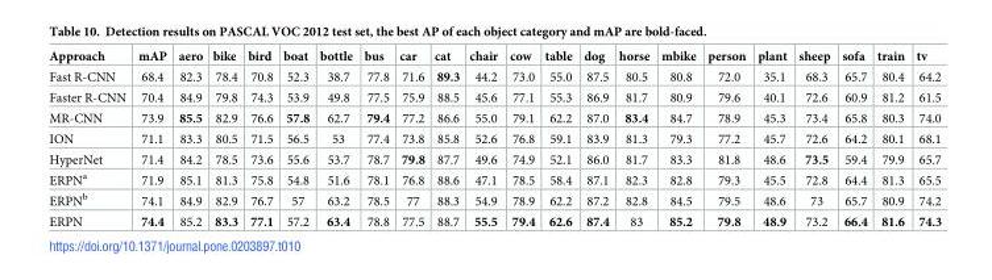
<table><thead><tr><td>Approach</td><td>mAP</td><td>aero</td><td>bike</td><td>bird</td><td>boat</td><td>bottle</td><td>bus</td><td>car</td><td>cat</td><td>chair</td><td>cow</td><td>table</td><td>dog</td><td>horse</td><td>mbike</td><td>person</td><td>plant</td><td>sheep</td><td>sofa</td><td>train</td><td>tv</td></tr></thead><tbody><tr><td>Fast R-CNN</td><td>68.4</td><td>82.3</td><td>78.4</td><td>70.8</td><td>52.3</td><td>38.7</td><td>77.8</td><td>71.6</td><td>89.3</td><td>44.2</td><td>73.0</td><td>55.0</td><td>87.5</td><td>80.5</td><td>80.8</td><td>72.0</td><td>35.1</td><td>68.3</td><td>65.7</td><td>80.4</td><td>64.2</td></tr><tr><td>Faster R-CNN</td><td>70.4</td><td>84.9</td><td>79.8</td><td>74.3</td><td>53.9</td><td>49.8</td><td>77.5</td><td>75.9</td><td>88.5</td><td>45.6</td><td>77.1</td><td>55.3</td><td>86.9</td><td>81.7</td><td>80.9</td><td>79.6</td><td>40.1</td><td>72.6</td><td>60.9</td><td>81.2</td><td>61.5</td></tr><tr><td>MR-CNN</td><td>73.9</td><td>85.5</td><td>82.9</td><td>76.6</td><td>57.8</td><td>62.7</td><td>79.4</td><td>77.2</td><td>86.6</td><td>55.0</td><td>79.1</td><td>62.2</td><td>87.0</td><td>83.4</td><td>84.7</td><td>78.9</td><td>45.3</td><td>73.4</td><td>65.8</td><td>80.3</td><td>74.0</td></tr><tr><td>ION</td><td>71.1</td><td>83.3</td><td>80.5</td><td>71.5</td><td>56.5</td><td>53</td><td>77.4</td><td>73.8</td><td>85.8</td><td>52.6</td><td>76.8</td><td>59.1</td><td>83.9</td><td>81.3</td><td>79.3</td><td>77.2</td><td>45.7</td><td>72.6</td><td>64.2</td><td>80.1</td><td>68.1</td></tr><tr><td>HyperNet</td><td>71.4</td><td>84.2</td><td>78.5</td><td>73.6</td><td>55.6</td><td>53.7</td><td>78.7</td><td>79.8</td><td>87.7</td><td>49.6</td><td>74.9</td><td>52.1</td><td>86.0</td><td>81.7</td><td>83.3</td><td>81.8</td><td>48.6</td><td>73.5</td><td>59.4</td><td>79.9</td><td>65.7</td></tr><tr><td>ERPN<sup>a</sup></td><td>71.9</td><td>85.1</td><td>81.3</td><td>75.8</td><td>54.8</td><td>51.6</td><td>78.1</td><td>76.8</td><td>88.6</td><td>47.1</td><td>78.5</td><td>58.4</td><td>87.1</td><td>82.3</td><td>82.8</td><td>79.3</td><td>45.5</td><td>72.8</td><td>64.4</td><td>81.3</td><td>65.5</td></tr><tr><td>ERPN<sup>b</sup></td><td>74.1</td><td>84.9</td><td>82.9</td><td>76.7</td><td>57</td><td>63.2</td><td>78.5</td><td>77</td><td>88.3</td><td>54.9</td><td>78.9</td><td>62.2</td><td>87.2</td><td>82.8</td><td>84.5</td><td>79.5</td><td>48.6</td><td>73</td><td>65.7</td><td>80.9</td><td>74.2</td></tr><tr><td>ERPN</td><td>74.4</td><td>85.2</td><td>83.3</td><td>77.1</td><td>57.2</td><td>63.4</td><td>78.8</td><td>77.5</td><td>88.7</td><td>55.5</td><td>79.4</td><td>62.6</td><td>87.4</td><td>83</td><td>85.2</td><td>79.8</td><td>48.9</td><td>73.2</td><td>66.4</td><td>81.6</td><td>74.3</td></tr></tbody></table>